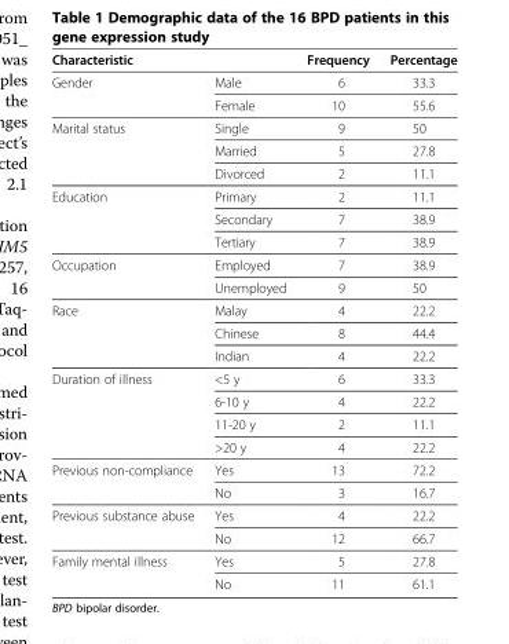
<table><thead><tr><td colspan="2">Characteristic</td><td rowspan="2">Frequency 6</td><td rowspan="2">Percentage 33.3</td></tr><tr><td>Gender</td><td>Male</td></tr></thead><tbody><tr><td></td><td>Female</td><td>10</td><td>55.6</td></tr><tr><td rowspan="3">Marital status</td><td>Single</td><td>9</td><td>50</td></tr><tr><td>Married</td><td>5</td><td>27.8</td></tr><tr><td>Divorced</td><td>2</td><td>11.1</td></tr><tr><td rowspan="3">Education</td><td>Primary</td><td>2</td><td>11.1</td></tr><tr><td>Secondary</td><td>7</td><td>38.9</td></tr><tr><td>Tertiary</td><td>7</td><td>38.9</td></tr><tr><td rowspan="2">Occupation</td><td>Employed</td><td>7</td><td>38.9</td></tr><tr><td>Unemployed</td><td>9</td><td>50</td></tr><tr><td rowspan="3">Race</td><td>Malay</td><td>4</td><td>22.2</td></tr><tr><td>Chinese</td><td>8</td><td>44.4</td></tr><tr><td>Indian</td><td>4</td><td>22.2</td></tr><tr><td rowspan="4">Duration of illness</td><td>&lt;5 y</td><td>6</td><td>33.3</td></tr><tr><td>6-10 y</td><td>4</td><td>22.2</td></tr><tr><td>11-20 y</td><td>2</td><td>11.1</td></tr><tr><td>&gt;20 y</td><td>4</td><td>22.2</td></tr><tr><td rowspan="2">Previous non-compliance</td><td>Yes</td><td>13</td><td>72.2</td></tr><tr><td>No</td><td>3</td><td>16.7</td></tr><tr><td rowspan="2">Previous substance abuse</td><td>Yes</td><td>4</td><td>22.2</td></tr><tr><td>No</td><td>12</td><td>66.7</td></tr><tr><td rowspan="2">Family mental illness</td><td>Yes</td><td>5</td><td>27.8</td></tr><tr><td>No</td><td>11</td><td>61.1</td></tr></tbody></table>